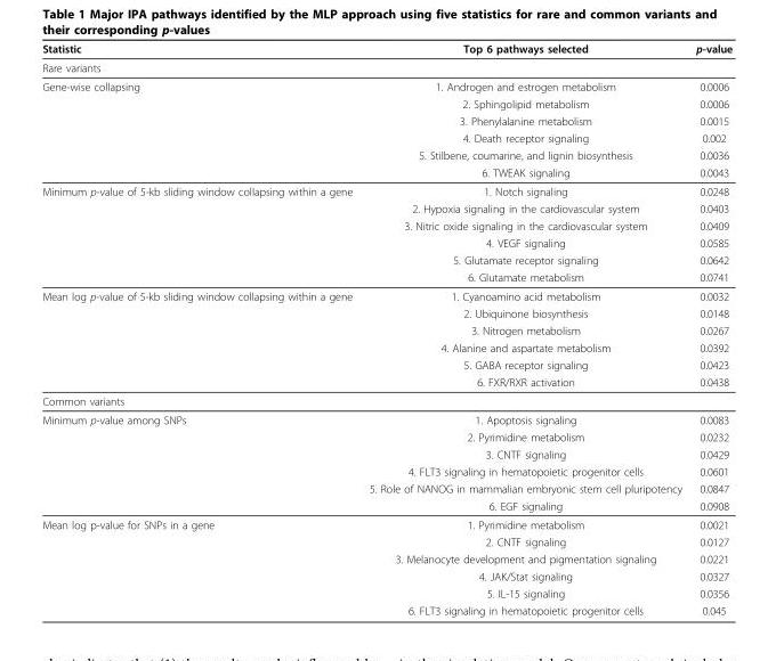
<table><thead><tr><td>Statistic</td><td>Top 6 pathways selected</td><td>p-value</td></tr></thead><tbody><tr><td colspan="3">Rare variants</td></tr><tr><td rowspan="6">Gene-wise collapsing</td><td>1. Androgen and estrogen metabolism</td><td>0.0006</td></tr><tr><td>2. Sphingolipid metabolism</td><td>0.0006</td></tr><tr><td>3. Phenylalanine metabolism</td><td>0.0015</td></tr><tr><td>4. Death receptor signaling</td><td>0.002</td></tr><tr><td>5. Stilbene, coumarine, and lignin biosynthesis</td><td>0.0036</td></tr><tr><td>6. TWEAK signaling</td><td>0.0043</td></tr><tr><td rowspan="6">Minimum p-value of 5-kb sliding window collapsing within a gene</td><td>1. Notch signaling</td><td>0.0248</td></tr><tr><td>2. Hypoxia signaling in the cardiovascular system</td><td>0.0403</td></tr><tr><td>3. Nitric oxide signaling in the cardiovascular system</td><td>0.0409</td></tr><tr><td>4. VEGF signaling</td><td>0.0585</td></tr><tr><td>5. Glutamate receptor signaling</td><td>0.0642</td></tr><tr><td>6. Glutamate metabolism</td><td>0.0741</td></tr><tr><td rowspan="6">Mean log p-value of 5-kb sliding window collapsing within a gene</td><td>1. Cyanoamino acid metabolism</td><td>0.0032</td></tr><tr><td>2. Ubiquinone biosynthesis</td><td>0.0148</td></tr><tr><td>3. Nitrogen metabolism</td><td>0.0267</td></tr><tr><td>4. Alanine and aspartate metabolism</td><td>0.0392</td></tr><tr><td>5. GABA receptor signaling</td><td>0.0423</td></tr><tr><td>6. FXR/RXR activation</td><td>0.0438</td></tr><tr><td colspan="3">Common variants</td></tr><tr><td rowspan="6">Minimum p-value among SNPs</td><td>1. Apoptosis signaling</td><td>0.0083</td></tr><tr><td>2. Pyrimidine metabolism</td><td>0.0232</td></tr><tr><td>3. CNTF signaling</td><td>0.0429</td></tr><tr><td>4. FLT3 signaling in hematopoietic progenitor cells</td><td>0.0601</td></tr><tr><td>5. Role of NANOG in mammalian embryonic stem cell pluripotency</td><td>0.0847</td></tr><tr><td>6. EGF signaling</td><td>0.0908</td></tr><tr><td rowspan="6">Mean log p-value for SNPs in a gene</td><td>1. Pyrimidine metabolism</td><td>0.0021</td></tr><tr><td>2. CNTF signaling</td><td>0.0127</td></tr><tr><td>3. Melanocyte development and pigmentation signaling</td><td>0.0221</td></tr><tr><td>4. JAK/Stat signaling</td><td>0.0327</td></tr><tr><td>5. IL-15 signaling</td><td>0.0356</td></tr><tr><td>6. FLT3 signaling in hematopoietic progenitor cells</td><td>0.045</td></tr></tbody></table>